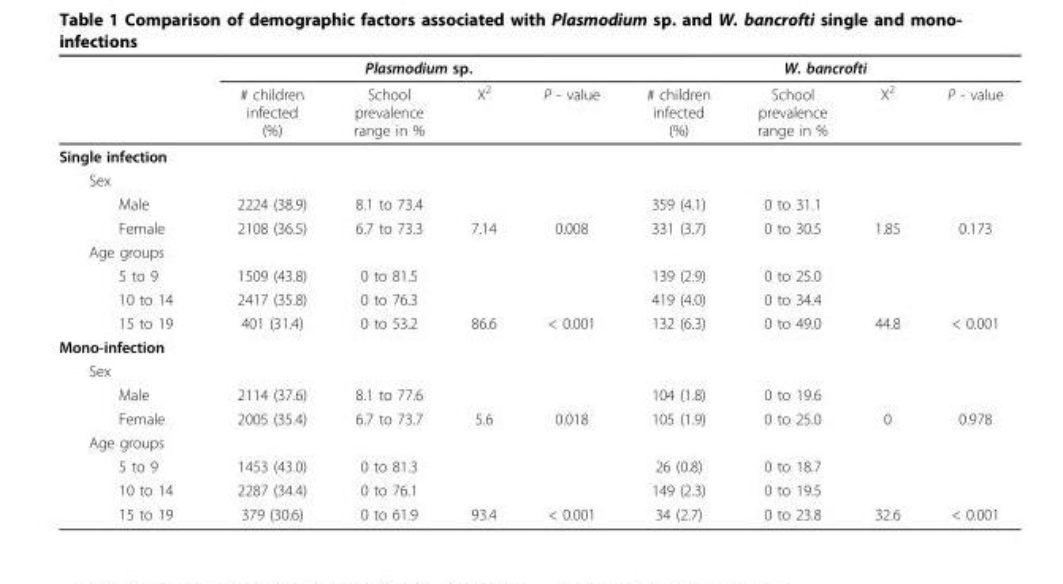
<table><thead><tr><td rowspan="2"></td><td colspan="4">Plasmodium sp.</td><td colspan="4">W. bancrofti</td></tr><tr><td># children infected (%)</td><td>School prevalence range in %</td><td>Χ<sup>2</sup></td><td>P - value</td><td># children infected (%)</td><td>School prevalence range in %</td><td>Χ<sup>2</sup></td><td>P - value</td></tr></thead><tbody><tr><td colspan="9">Single infection</td></tr><tr><td colspan="9">Sex</td></tr><tr><td>Male</td><td>2224 (38.9)</td><td>8.1 to 73.4</td><td></td><td></td><td>359 (4.1)</td><td>0 to 31.1</td><td></td><td></td></tr><tr><td>Female</td><td>2108 (36.5)</td><td>6.7 to 73.3</td><td>7.14</td><td>0.008</td><td>331 (3.7)</td><td>0 to 30.5</td><td>1.85</td><td>0.173</td></tr><tr><td colspan="9">Age groups</td></tr><tr><td>5 to 9</td><td>1509 (43.8)</td><td>0 to 81.5</td><td></td><td></td><td>139 (2.9)</td><td>0 to 25.0</td><td></td><td></td></tr><tr><td>10 to 14</td><td>2417 (35.8)</td><td>0 to 76.3</td><td></td><td></td><td>419 (4.0)</td><td>0 to 34.4</td><td></td><td></td></tr><tr><td>15 to 19</td><td>401 (31.4)</td><td>0 to 53.2</td><td>86.6</td><td>&lt; 0.001</td><td>132 (6.3)</td><td>0 to 49.0</td><td>44.8</td><td>&lt; 0.001</td></tr><tr><td colspan="9">Mono-infection</td></tr><tr><td colspan="9">Sex</td></tr><tr><td>Male</td><td>2114 (37.6)</td><td>8.1 to 77.6</td><td></td><td></td><td>104 (1.8)</td><td>0 to 19.6</td><td></td><td></td></tr><tr><td>Female</td><td>2005 (35.4)</td><td>6.7 to 73.7</td><td>5.6</td><td>0.018</td><td>105 (1.9)</td><td>0 to 25.0</td><td>0</td><td>0.978</td></tr><tr><td colspan="9">Age groups</td></tr><tr><td>5 to 9</td><td>1453 (43.0)</td><td>0 to 81.3</td><td></td><td></td><td>26 (0.8)</td><td>0 to 18.7</td><td></td><td></td></tr><tr><td>10 to 14</td><td>2287 (34.4)</td><td>0 to 76.1</td><td></td><td></td><td>149 (2.3)</td><td>0 to 19.5</td><td></td><td></td></tr><tr><td>15 to 19</td><td>379 (30.6)</td><td>0 to 61.9</td><td>93.4</td><td>&lt; 0.001</td><td>34 (2.7)</td><td>0 to 23.8</td><td>32.6</td><td>&lt; 0.001</td></tr></tbody></table>